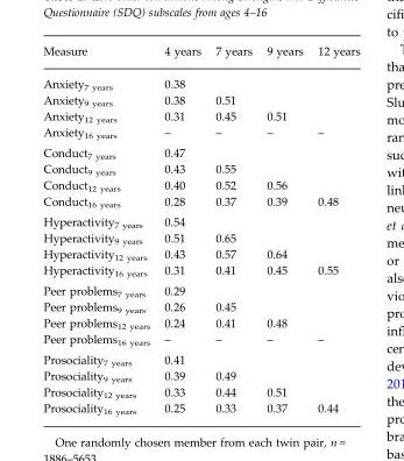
<table><thead><tr><td>Measure</td><td>4 years</td><td>7 years</td><td>9 years</td><td>12 years</td></tr></thead><tbody><tr><td>Anxiety<sub>7 years</sub></td><td>0.38</td><td></td><td></td><td></td></tr><tr><td>Anxiety<sub>9 years</sub></td><td>0.38</td><td>0.51</td><td></td><td></td></tr><tr><td>Anxiety<sub>12 years</sub></td><td>0.31</td><td>0.45</td><td>0.51</td><td></td></tr><tr><td>Anxiety<sub>16 years</sub></td><td>–</td><td>–</td><td>–</td><td>–</td></tr><tr><td>Conduct<sub>7 years</sub></td><td>0.47</td><td></td><td></td><td></td></tr><tr><td>Conduct<sub>9 years</sub></td><td>0.43</td><td>0.55</td><td></td><td></td></tr><tr><td>Conduct<sub>12 years</sub></td><td>0.40</td><td>0.52</td><td>0.56</td><td></td></tr><tr><td>Conduct<sub>16 years</sub></td><td>0.28</td><td>0.37</td><td>0.39</td><td>0.48</td></tr><tr><td>Hyperactivity<sub>7 years</sub></td><td>0.54</td><td></td><td></td><td></td></tr><tr><td>Hyperactivity<sub>9 years</sub></td><td>0.51</td><td>0.65</td><td></td><td></td></tr><tr><td>Hyperactivity<sub>12 years</sub></td><td>0.43</td><td>0.57</td><td>0.64</td><td></td></tr><tr><td>Hyperactivity<sub>16 years</sub></td><td>0.31</td><td>0.41</td><td>0.45</td><td>0.55</td></tr><tr><td>Peer problems<sub>7 years</sub></td><td>0.29</td><td></td><td></td><td></td></tr><tr><td>Peer problems<sub>9 years</sub></td><td>0.26</td><td>0.45</td><td></td><td></td></tr><tr><td>Peer problems<sub>12 years</sub></td><td>0.24</td><td>0.41</td><td>0.48</td><td></td></tr><tr><td>Peer problems<sub>16 years</sub></td><td>–</td><td>–</td><td>–</td><td>–</td></tr><tr><td>Prosociality<sub>7 years</sub></td><td>0.41</td><td></td><td></td><td></td></tr><tr><td>Prosociality<sub>9 years</sub></td><td>0.39</td><td>0.49</td><td></td><td></td></tr><tr><td>Prosociality<sub>12 years</sub></td><td>0.33</td><td>0.44</td><td>0.51</td><td></td></tr><tr><td>Prosociality<sub>16 years</sub></td><td>0.25</td><td>0.33</td><td>0.37</td><td>0.44</td></tr></tbody></table>